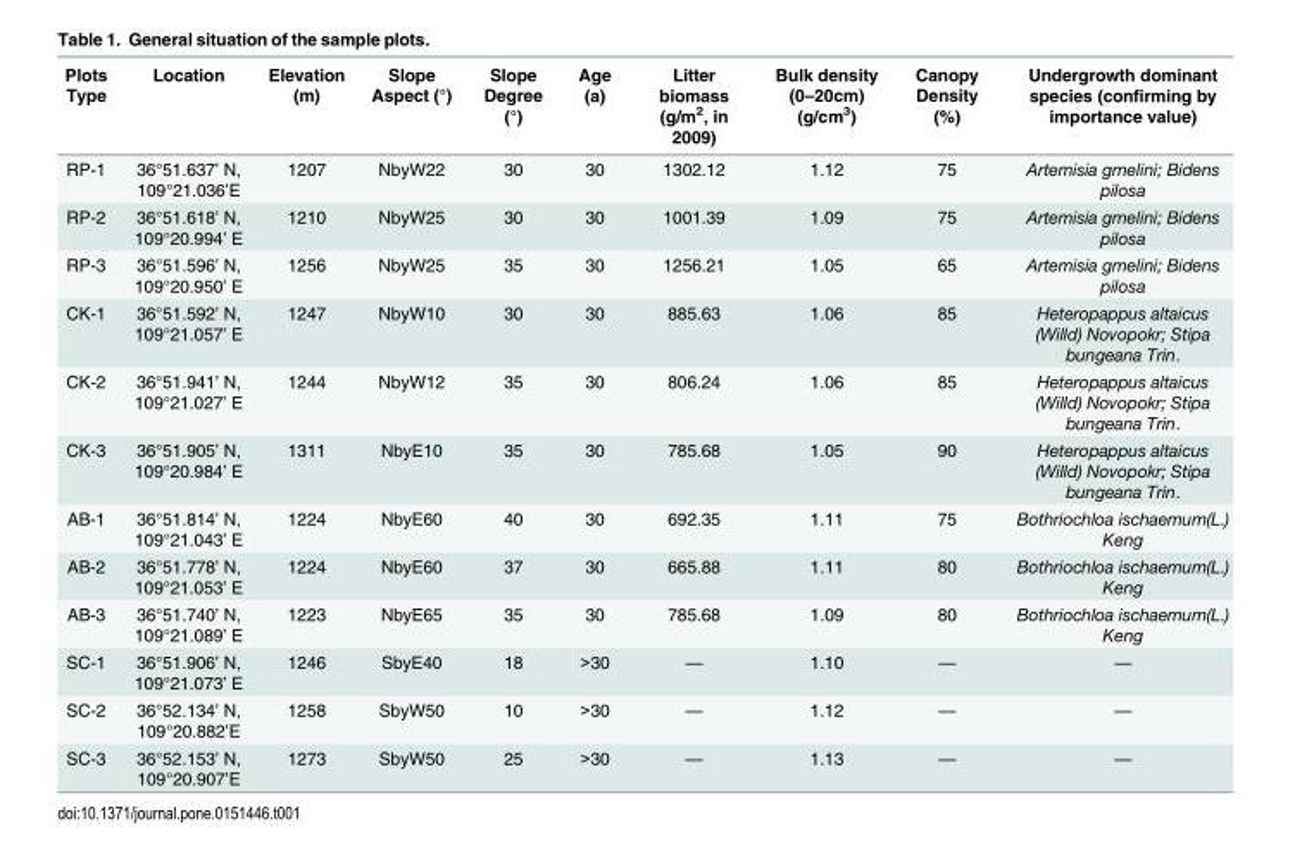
<table><thead><tr><td>Plots Type</td><td>Location</td><td>Elevation (m)</td><td>Slope Aspect (°)</td><td>Slope Degree (°)</td><td>Age (a)</td><td>Litter biomass (g/m<sup>2</sup>, in 2009)</td><td>Bulk density (0–20cm) (g/cm<sup>3</sup>)</td><td>Canopy Density (%)</td><td>Undergrowth dominant species (confirming by importance value)</td></tr></thead><tbody><tr><td>RP-1</td><td>36°51.637’ N, 109°21.036’E</td><td>1207</td><td>NbyW22</td><td>30</td><td>30</td><td>1302.12</td><td>1.12</td><td>75</td><td>Artemisia gmelini; Bidens pilosa</td></tr><tr><td>RP-2</td><td>36°51.618’ N, 109°20.994’ E</td><td>1210</td><td>NbyW25</td><td>30</td><td>30</td><td>1001.39</td><td>1.09</td><td>75</td><td>Artemisia gmelini; Bidens pilosa</td></tr><tr><td>RP-3</td><td>36°51.596’ N, 109°20.950’ E</td><td>1256</td><td>NbyW25</td><td>35</td><td>30</td><td>1256.21</td><td>1.05</td><td>65</td><td>Artemisia gmelini; Bidens pilosa</td></tr><tr><td>CK-1</td><td>36°51.592’ N, 109°21.057’ E</td><td>1247</td><td>NbyW10</td><td>30</td><td>30</td><td>885.63</td><td>1.06</td><td>85</td><td>Heteropappus altaicus (Willd) Novopokr; Stipa bungeana Trin.</td></tr><tr><td>CK-2</td><td>36°51.941’ N, 109°21.027’ E</td><td>1244</td><td>NbyW12</td><td>35</td><td>30</td><td>806.24</td><td>1.06</td><td>85</td><td>Heteropappus altaicus (Willd) Novopokr; Stipa bungeana Trin.</td></tr><tr><td>CK-3</td><td>36°51.905’ N, 109°20.984’ E</td><td>1311</td><td>NbyE10</td><td>35</td><td>30</td><td>785.68</td><td>1.05</td><td>90</td><td>Heteropappus altaicus (Willd) Novopokr; Stipa bungeana Trin.</td></tr><tr><td>AB-1</td><td>36°51.814’ N, 109°21.043’ E</td><td>1224</td><td>NbyE60</td><td>40</td><td>30</td><td>692.35</td><td>1.11</td><td>75</td><td>Bothriochloa ischaemum(L.) Keng</td></tr><tr><td>AB-2</td><td>36°51.778’ N, 109°21.053’ E</td><td>1224</td><td>NbyE60</td><td>37</td><td>30</td><td>665.88</td><td>1.11</td><td>80</td><td>Bothriochloa ischaemum(L.) Keng</td></tr><tr><td>AB-3</td><td>36°51.740’ N, 109°21.089’ E</td><td>1223</td><td>NbyE65</td><td>35</td><td>30</td><td>785.68</td><td>1.09</td><td>80</td><td>Bothriochloa ischaemum(L.) Keng</td></tr><tr><td>SC-1</td><td>36°51.906’ N, 109°21.073’ E</td><td>1246</td><td>SbyE40</td><td>18</td><td>&gt;30</td><td>—</td><td>1.10</td><td>—</td><td>—</td></tr><tr><td>SC-2</td><td>36°52.134’ N, 109°20.882’E</td><td>1258</td><td>SbyW50</td><td>10</td><td>&gt;30</td><td>—</td><td>1.12</td><td>—</td><td>—</td></tr><tr><td>SC-3</td><td>36°52.153’ N, 109°20.907’E</td><td>1273</td><td>SbyW50</td><td>25</td><td>&gt;30</td><td>—</td><td>1.13</td><td>—</td><td>—</td></tr></tbody></table>